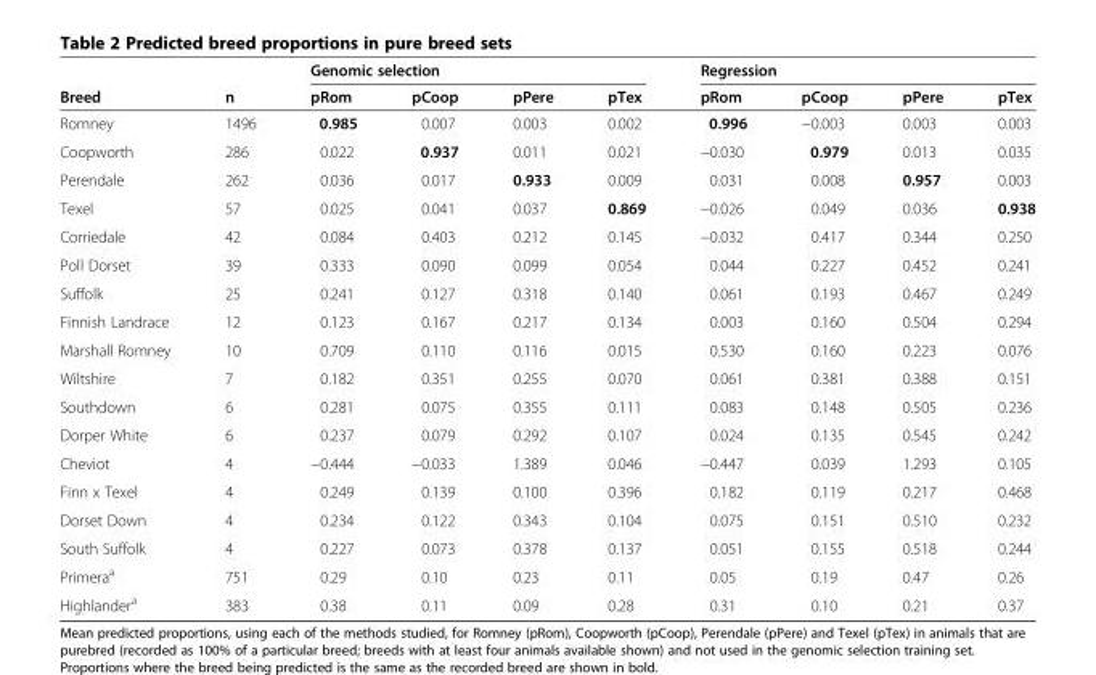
<table><thead><tr><td rowspan="2">Breed</td><td rowspan="2">n</td><td colspan="4">Genomic selection</td><td colspan="4">Regression</td></tr><tr><td>pRom</td><td>pCoop</td><td>pPere</td><td>pTex</td><td>pRom</td><td>pCoop</td><td>pPere</td><td>pTex</td></tr></thead><tbody><tr><td>Romney</td><td>1496</td><td>0.985</td><td>0.007</td><td>0.003</td><td>0.002</td><td>0.996</td><td>−0.003</td><td>0.003</td><td>0.003</td></tr><tr><td>Coopworth</td><td>286</td><td>0.022</td><td>0.937</td><td>0.011</td><td>0.021</td><td>−0.030</td><td>0.979</td><td>0.013</td><td>0.035</td></tr><tr><td>Perendale</td><td>262</td><td>0.036</td><td>0.017</td><td>0.933</td><td>0.009</td><td>0.031</td><td>0.008</td><td>0.957</td><td>0.003</td></tr><tr><td>Texel</td><td>57</td><td>0.025</td><td>0.041</td><td>0.037</td><td>0.869</td><td>−0.026</td><td>0.049</td><td>0.036</td><td>0.938</td></tr><tr><td>Corriedale</td><td>42</td><td>0.084</td><td>0.403</td><td>0.212</td><td>0.145</td><td>−0.032</td><td>0.417</td><td>0.344</td><td>0.250</td></tr><tr><td>Poll Dorset</td><td>39</td><td>0.333</td><td>0.090</td><td>0.099</td><td>0.054</td><td>0.044</td><td>0.227</td><td>0.452</td><td>0.241</td></tr><tr><td>Suffolk</td><td>25</td><td>0.241</td><td>0.127</td><td>0.318</td><td>0.140</td><td>0.061</td><td>0.193</td><td>0.467</td><td>0.249</td></tr><tr><td>Finnish Landrace</td><td>12</td><td>0.123</td><td>0.167</td><td>0.217</td><td>0.134</td><td>0.003</td><td>0.160</td><td>0.504</td><td>0.294</td></tr><tr><td>Marshall Romney</td><td>10</td><td>0.709</td><td>0.110</td><td>0.116</td><td>0.015</td><td>0.530</td><td>0.160</td><td>0.223</td><td>0.076</td></tr><tr><td>Wiltshire</td><td>7</td><td>0.182</td><td>0.351</td><td>0.255</td><td>0.070</td><td>0.061</td><td>0.381</td><td>0.388</td><td>0.151</td></tr><tr><td>Southdown</td><td>6</td><td>0.281</td><td>0.075</td><td>0.355</td><td>0.111</td><td>0.083</td><td>0.148</td><td>0.505</td><td>0.236</td></tr><tr><td>Dorper White</td><td>6</td><td>0.237</td><td>0.079</td><td>0.292</td><td>0.107</td><td>0.024</td><td>0.135</td><td>0.545</td><td>0.242</td></tr><tr><td>Cheviot</td><td>4</td><td>−0.444</td><td>−0.033</td><td>1.389</td><td>0.046</td><td>−0.447</td><td>0.039</td><td>1.293</td><td>0.105</td></tr><tr><td>Finn x Texel</td><td>4</td><td>0.249</td><td>0.139</td><td>0.100</td><td>0.396</td><td>0.182</td><td>0.119</td><td>0.217</td><td>0.468</td></tr><tr><td>Dorset Down</td><td>4</td><td>0.234</td><td>0.122</td><td>0.343</td><td>0.104</td><td>0.075</td><td>0.151</td><td>0.510</td><td>0.232</td></tr><tr><td>South Suffolk</td><td>4</td><td>0.227</td><td>0.073</td><td>0.378</td><td>0.137</td><td>0.051</td><td>0.155</td><td>0.518</td><td>0.244</td></tr><tr><td>Primera<sup>a</sup></td><td>751</td><td>0.29</td><td>0.10</td><td>0.23</td><td>0.11</td><td>0.05</td><td>0.19</td><td>0.47</td><td>0.26</td></tr><tr><td>Highlander<sup>a</sup></td><td>383</td><td>0.38</td><td>0.11</td><td>0.09</td><td>0.28</td><td>0.31</td><td>0.10</td><td>0.21</td><td>0.37</td></tr></tbody></table>